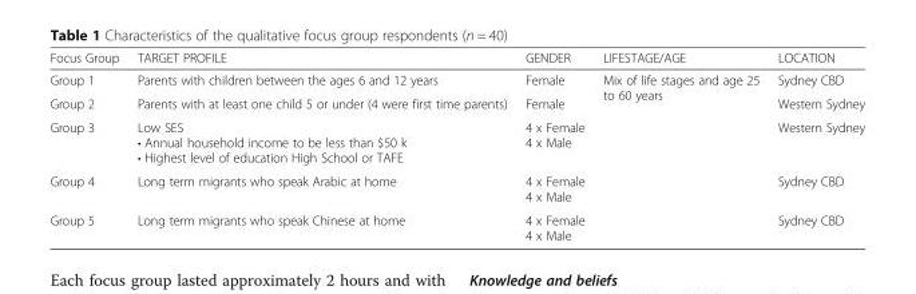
<table><thead><tr><td>Focus Group</td><td>TARGET PROFILE</td><td>GENDER</td><td>LIFESTAGE/AGE</td><td>LOCATION</td></tr></thead><tbody><tr><td>Group 1</td><td>Parents with children between the ages 6 and 12 years</td><td>Female</td><td rowspan="5">Mix of life stages and age 25 to 60 years</td><td>Sydney CBD</td></tr><tr><td>Group 2</td><td>Parents with at least one child 5 or under (4 were first time parents)</td><td>Female</td><td>Western Sydney</td></tr><tr><td>Group 3</td><td>Low SES • Annual household income to be less than $50 k • Highest level of education High School or TAFE</td><td>4 x Female 4 x Male</td><td>Western Sydney</td></tr><tr><td>Group 4</td><td>Long term migrants who speak Arabic at home</td><td>4 x Female 4 x Male</td><td>Sydney CBD</td></tr><tr><td>Group 5</td><td>Long term migrants who speak Chinese at home</td><td>4 x Female 4 x Male</td><td>Sydney CBD</td></tr></tbody></table>